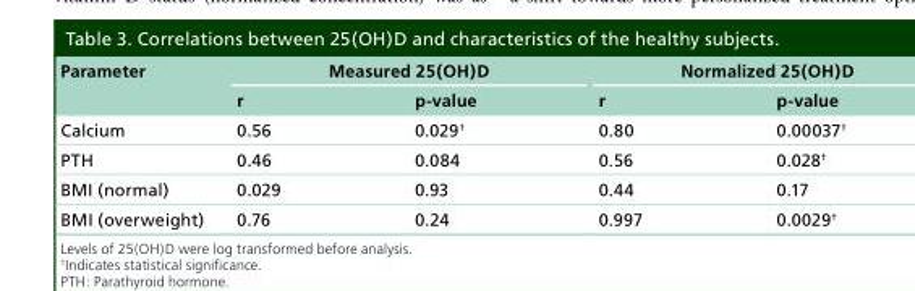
<table><thead><tr><td rowspan="2">Parameter</td><td colspan="2">Measured 25(OH)D</td><td colspan="2">Normalized 25(OH)D</td></tr><tr><td>r</td><td>p-value</td><td>r</td><td>p-value</td></tr></thead><tbody><tr><td>Calcium</td><td>0.56</td><td>0.029<sup>†</sup></td><td>0.80</td><td>0.00037<sup>†</sup></td></tr><tr><td>PTH</td><td>0.46</td><td>0.084</td><td>0.56</td><td>0.028<sup>†</sup></td></tr><tr><td>BMI (normal)</td><td>0.029</td><td>0.93</td><td>0.44</td><td>0.17</td></tr><tr><td>BMI (overweight)</td><td>0.76</td><td>0.24</td><td>0.997</td><td>0.0029<sup>†</sup></td></tr></tbody></table>